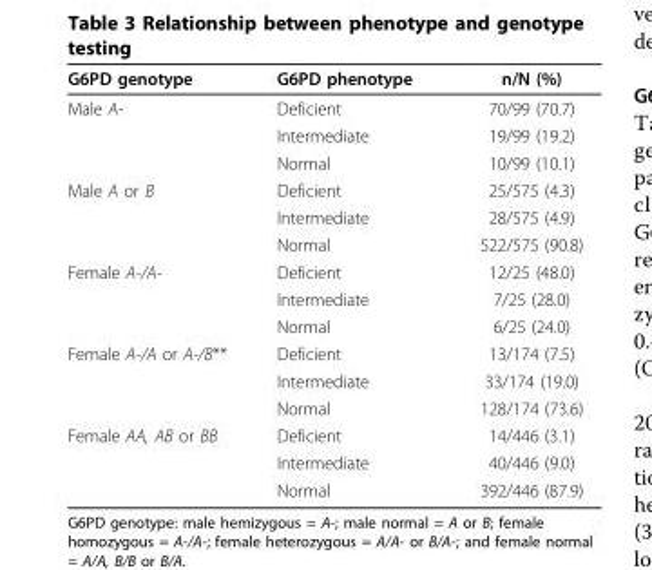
<table><thead><tr><td>G6PD genotype</td><td>G6PD phenotype</td><td>n/N (%)</td></tr></thead><tbody><tr><td rowspan="3">Male A-</td><td>Deficient</td><td>70/99 (70.7)</td></tr><tr><td>Intermediate</td><td>19/99 (19.2)</td></tr><tr><td>Normal</td><td>10/99 (10.1)</td></tr><tr><td rowspan="3">Male A or B</td><td>Deficient</td><td>25/575 (4.3)</td></tr><tr><td>Intermediate</td><td>28/575 (4.9)</td></tr><tr><td>Normal</td><td>522/575 (90.8)</td></tr><tr><td rowspan="3">Female A-/A-</td><td>Deficient</td><td>12/25 (48.0)</td></tr><tr><td>Intermediate</td><td>7/25 (28.0)</td></tr><tr><td>Normal</td><td>6/25 (24.0)</td></tr><tr><td rowspan="3">Female A-/A or A-/B**</td><td>Deficient</td><td>13/174 (7.5)</td></tr><tr><td>Intermediate</td><td>33/174 (19.0)</td></tr><tr><td>Normal</td><td>128/174 (73.6)</td></tr><tr><td rowspan="3">Female AA, AB or BB</td><td>Deficient</td><td>14/446 (3.1)</td></tr><tr><td>Intermediate</td><td>40/446 (9.0)</td></tr><tr><td>Normal</td><td>392/446 (87.9)</td></tr></tbody></table>